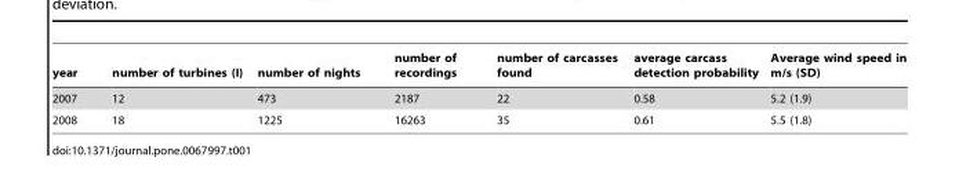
<table><thead><tr><td>year</td><td>number of turbines (I)</td><td>number of nights</td><td>number of recordings</td><td>number of carcasses found</td><td>average carcass detection probability</td><td>Average wind speed in m/s (SD)</td></tr></thead><tbody><tr><td>2007</td><td>12</td><td>473</td><td>2187</td><td>22</td><td>0.58</td><td>5.2 (1.9)</td></tr><tr><td>2008</td><td>18</td><td>1225</td><td>16263</td><td>35</td><td>0.61</td><td>5.5 (1.8)</td></tr></tbody></table>